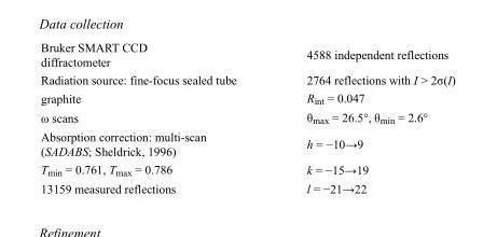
<table><tbody><tr><td>Bruker SMART CCD diffractometer</td><td>4588 independent reflections</td></tr><tr><td>Radiation source: fine-focus sealed tube</td><td>2764 reflections with I &gt; 2σ(I)</td></tr><tr><td>graphite</td><td>R<sub>int</sub> = 0.047</td></tr><tr><td>ω scans</td><td>θ<sub>max</sub> = 26.5°, θ<sub>min</sub> = 2.6°</td></tr><tr><td>Absorption correction: multi-scan (SADABS; Sheldrick, 1996)</td><td>h = −10→9</td></tr><tr><td>T<sub>min</sub> = 0.761, T<sub>max</sub> = 0.786</td><td>k = −15→19</td></tr><tr><td>13159 measured reflections</td><td>l = −21→22</td></tr></tbody></table>